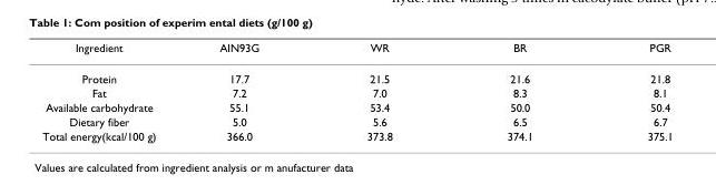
<table><thead><tr><td>Ingredient</td><td>AIN93G</td><td>WR</td><td>BR</td><td>PGR</td></tr></thead><tbody><tr><td>Protein</td><td>17.7</td><td>21.5</td><td>21.6</td><td>21.8</td></tr><tr><td>Fat</td><td>7.2</td><td>7.0</td><td>8.3</td><td>8.1</td></tr><tr><td>Available carbohydrate</td><td>55.1</td><td>53.4</td><td>50.0</td><td>50.4</td></tr><tr><td>Dietary fiber</td><td>5.0</td><td>5.6</td><td>6.5</td><td>6.7</td></tr><tr><td>Total energy(kcal/100 g)</td><td>366.0</td><td>373.8</td><td>374.1</td><td>375.1</td></tr></tbody></table>